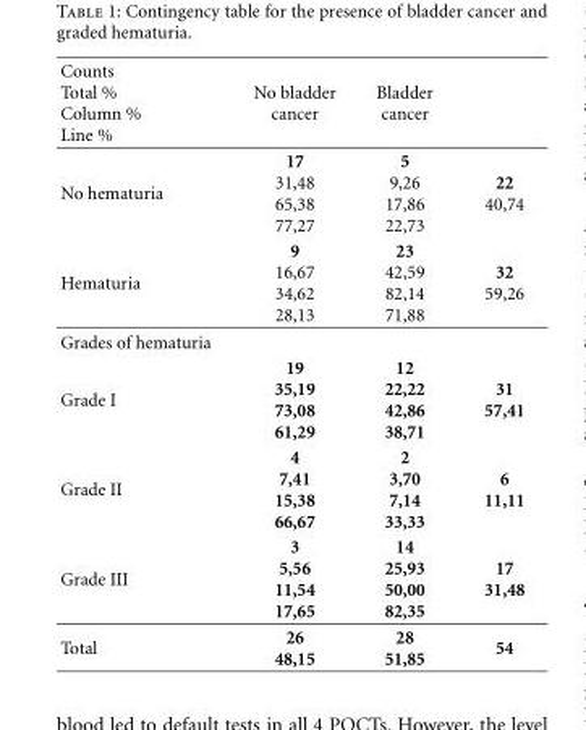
<table><thead><tr><td>Counts Total % Column % Line %</td><td>No bladder cancer</td><td>Bladder cancer</td><td></td></tr></thead><tbody><tr><td>No hematuria</td><td>17 31,48 65,38 77,27</td><td>5 9,26 17,86 22,73</td><td>22 40,74</td></tr><tr><td>Hematuria</td><td>9 16,67 34,62 28,13</td><td>23 42,59 82,14 71,88</td><td>32 59,26</td></tr><tr><td colspan="4">Grades of hematuria</td></tr><tr><td>Grade I</td><td>19 35,19 73,08 61,29</td><td>12 22,22 42,86 38,71</td><td>31 57,41</td></tr><tr><td>Grade II</td><td>4 7,41 15,38 66,67</td><td>2 3,70 7,14 33,33</td><td>6 11,11</td></tr><tr><td>Grade III</td><td>3 5,56 11,54 17,65</td><td>14 25,93 50,00 82,35</td><td>17 31,48</td></tr><tr><td>Total</td><td>26 48,15</td><td>28 51,85</td><td>54</td></tr></tbody></table>